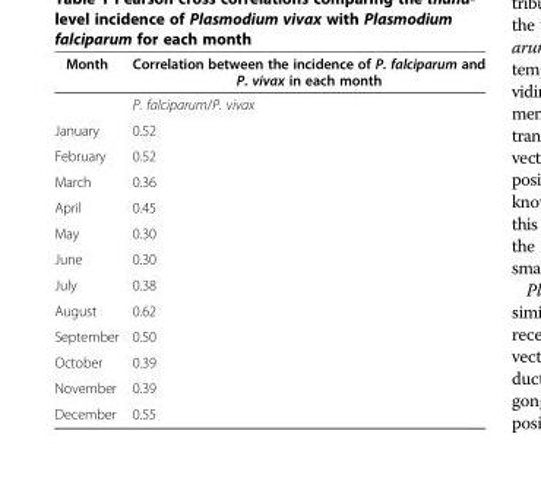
<table><thead><tr><td>Month</td><td>Correlation between the incidence of P. falciparum and P. vivax in each month</td></tr></thead><tbody><tr><td></td><td>P. falciparum/P. vivax</td></tr><tr><td>January</td><td>0.52</td></tr><tr><td>February</td><td>0.52</td></tr><tr><td>March</td><td>0.36</td></tr><tr><td>April</td><td>0.45</td></tr><tr><td>May</td><td>0.30</td></tr><tr><td>June</td><td>0.30</td></tr><tr><td>July</td><td>0.38</td></tr><tr><td>August</td><td>0.62</td></tr><tr><td>September</td><td>0.50</td></tr><tr><td>October</td><td>0.39</td></tr><tr><td>November</td><td>0.39</td></tr><tr><td>December</td><td>0.55</td></tr></tbody></table>